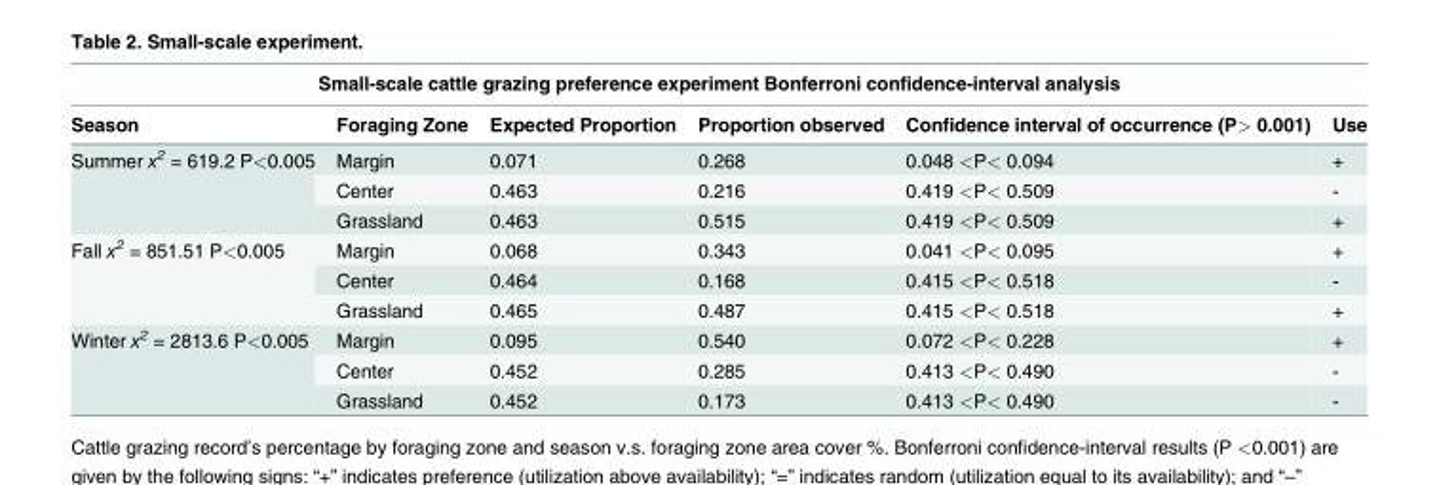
<table><thead><tr><td colspan="6">Small-scale cattle grazing preference experiment Bonferroni confidence-interval analysis</td></tr><tr><td>Season</td><td>Foraging Zone</td><td>Expected Proportion</td><td>Proportion observed</td><td>Confidence interval of occurrence (P&gt; 0.001)</td><td>Use</td></tr></thead><tbody><tr><td rowspan="3">Summer x<sup>2</sup> = 619.2 P&lt;0.005</td><td>Margin</td><td>0.071</td><td>0.268</td><td>0.048 &lt;P&lt; 0.094</td><td>+</td></tr><tr><td>Center</td><td>0.463</td><td>0.216</td><td>0.419 &lt;P&lt; 0.509</td><td>-</td></tr><tr><td>Grassland</td><td>0.463</td><td>0.515</td><td>0.419 &lt;P&lt; 0.509</td><td>+</td></tr><tr><td rowspan="3">Fall x<sup>2</sup> = 851.51 P&lt;0.005</td><td>Margin</td><td>0.068</td><td>0.343</td><td>0.041 &lt;P&lt; 0.095</td><td>+</td></tr><tr><td>Center</td><td>0.464</td><td>0.168</td><td>0.415 &lt;P&lt; 0.518</td><td>-</td></tr><tr><td>Grassland</td><td>0.465</td><td>0.487</td><td>0.415 &lt;P&lt; 0.518</td><td>+</td></tr><tr><td rowspan="3">Winter x<sup>2</sup> = 2813.6 P&lt;0.005</td><td>Margin</td><td>0.095</td><td>0.540</td><td>0.072 &lt;P&lt; 0.228</td><td>+</td></tr><tr><td>Center</td><td>0.452</td><td>0.285</td><td>0.413 &lt;P&lt; 0.490</td><td>-</td></tr><tr><td>Grassland</td><td>0.452</td><td>0.173</td><td>0.413 &lt;P&lt; 0.490</td><td>-</td></tr></tbody></table>